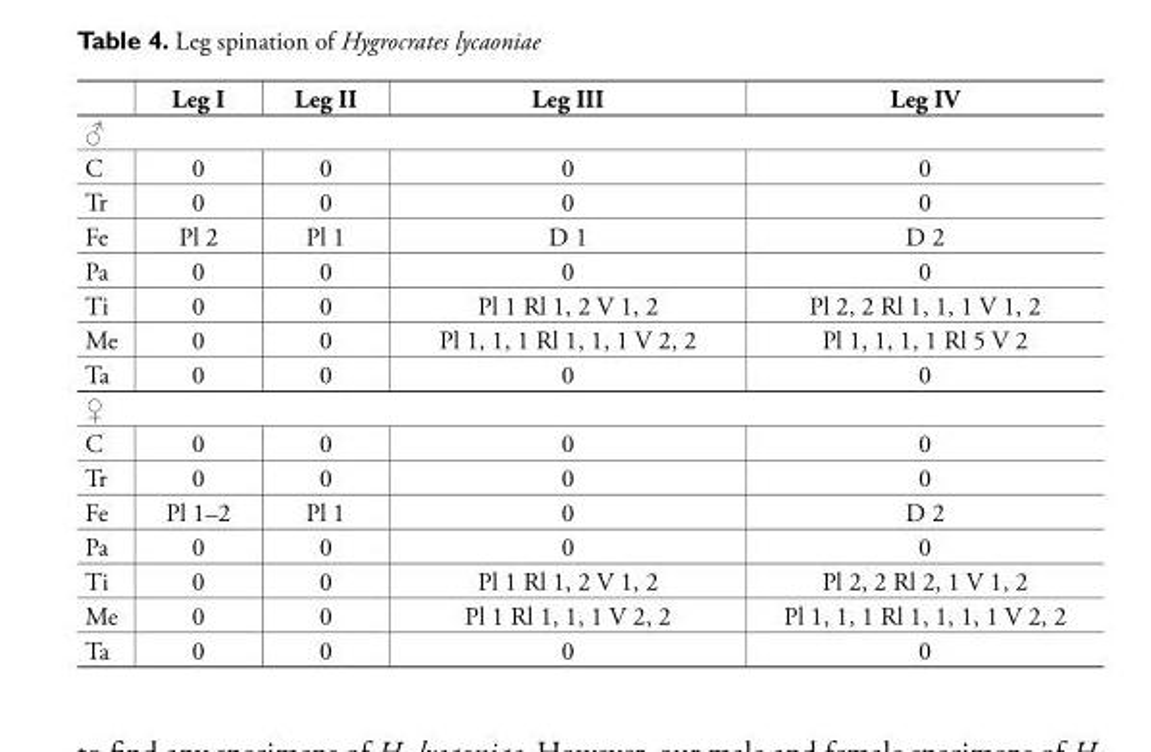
<table><thead><tr><td></td><td>Leg I</td><td>Leg II</td><td>Leg III</td><td>Leg IV</td></tr><tr><td colspan="5">♂</td></tr></thead><tbody><tr><td>C</td><td>0</td><td>0</td><td>0</td><td>0</td></tr><tr><td>Tr</td><td>0</td><td>0</td><td>0</td><td>0</td></tr><tr><td>Fe</td><td>Pl 2</td><td>Pl 1</td><td>D 1</td><td>D 2</td></tr><tr><td>Pa</td><td>0</td><td>0</td><td>0</td><td>0</td></tr><tr><td>Ti</td><td>0</td><td>0</td><td>Pl 1 Rl 1, 2 V 1, 2</td><td>Pl 2, 2 Rl 1, 1, 1 V 1, 2</td></tr><tr><td>Me</td><td>0</td><td>0</td><td>Pl 1, 1, 1 Rl 1, 1, 1 V 2, 2</td><td>Pl 1, 1, 1, 1 Rl 5 V 2</td></tr><tr><td>Ta</td><td>0</td><td>0</td><td>0</td><td>0</td></tr><tr><td colspan="5">♀</td></tr><tr><td>C</td><td>0</td><td>0</td><td>0</td><td>0</td></tr><tr><td>Tr</td><td>0</td><td>0</td><td>0</td><td>0</td></tr><tr><td>Fe</td><td>Pl 1–2</td><td>Pl 1</td><td>0</td><td>D 2</td></tr><tr><td>Pa</td><td>0</td><td>0</td><td>0</td><td>0</td></tr><tr><td>Ti</td><td>0</td><td>0</td><td>Pl 1 Rl 1, 2 V 1, 2</td><td>Pl 2, 2 Rl 2, 1 V 1, 2</td></tr><tr><td>Me</td><td>0</td><td>0</td><td>Pl 1 Rl 1, 1, 1 V 2, 2</td><td>Pl 1, 1, 1 Rl 1, 1, 1, 1 V 2, 2</td></tr><tr><td>Ta</td><td>0</td><td>0</td><td>0</td><td>0</td></tr></tbody></table>